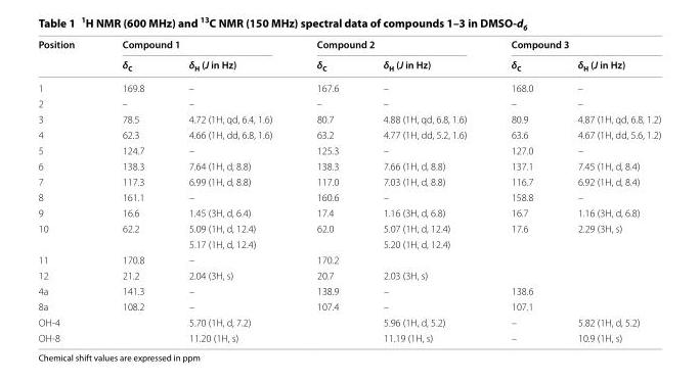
<table><thead><tr><td rowspan="2">Position</td><td colspan="2">Compound 1</td><td colspan="2">Compound 2</td><td colspan="2">Compound 3</td></tr><tr><td>δ<sub>C</sub></td><td>δ<sub>H</sub> (J in Hz)</td><td>δ<sub>C</sub></td><td>δ<sub>H</sub> (J in Hz)</td><td>δ<sub>C</sub></td><td>δ<sub>H</sub> (J in Hz)</td></tr></thead><tbody><tr><td>1</td><td>169.8</td><td>–</td><td>167.6</td><td>–</td><td>168.0</td><td>–</td></tr><tr><td>2</td><td>–</td><td>–</td><td>–</td><td>–</td><td>–</td><td>–</td></tr><tr><td>3</td><td>78.5</td><td>4.72 (1H, qd, 6.4, 1.6)</td><td>80.7</td><td>4.88 (1H, qd, 6.8, 1.6)</td><td>80.9</td><td>4.87 (1H, qd, 6.8, 1.2)</td></tr><tr><td>4</td><td>62.3</td><td>4.66 (1H, dd, 6.8, 1.6)</td><td>63.2</td><td>4.77 (1H, dd, 5.2, 1.6)</td><td>63.6</td><td>4.67 (1H, dd, 5.6, 1.2)</td></tr><tr><td>5</td><td>124.7</td><td>–</td><td>125.3</td><td>–</td><td>127.0</td><td>–</td></tr><tr><td>6</td><td>138.3</td><td>7.64 (1H, d, 8.8)</td><td>138.3</td><td>7.66 (1H, d, 8.8)</td><td>137.1</td><td>7.45 (1H, d, 8.4)</td></tr><tr><td>7</td><td>117.3</td><td>6.99 (1H, d, 8.8)</td><td>117.0</td><td>7.03 (1H, d, 8.8)</td><td>116.7</td><td>6.92 (1H, d, 8.4)</td></tr><tr><td>8</td><td>161.1</td><td>–</td><td>160.6</td><td>–</td><td>158.8</td><td>–</td></tr><tr><td>9</td><td>16.6</td><td>1.45 (3H, d, 6.4)</td><td>17.4</td><td>1.16 (3H, d, 6.8)</td><td>16.7</td><td>1.16 (3H, d, 6.8)</td></tr><tr><td rowspan="2">10</td><td>62.2</td><td>5.09 (1H, d, 12.4)</td><td>62.0</td><td>5.07 (1H, d, 12.4)</td><td>17.6</td><td>2.29 (3H, s)</td></tr><tr><td></td><td>5.17 (1H, d, 12.4)</td><td></td><td>5.20 (1H, d, 12.4)</td><td></td><td></td></tr><tr><td>11</td><td>170.8</td><td>–</td><td>170.2</td><td></td><td></td><td></td></tr><tr><td>12</td><td>21.2</td><td>2.04 (3H, s)</td><td>20.7</td><td>2.03 (3H, s)</td><td></td><td></td></tr><tr><td>4a</td><td>141.3</td><td>–</td><td>138.9</td><td>–</td><td>138.6</td><td></td></tr><tr><td>8a</td><td>108.2</td><td>–</td><td>107.4</td><td>–</td><td>107.1</td><td></td></tr><tr><td>OH-4</td><td></td><td>5.70 (1H, d, 7.2)</td><td></td><td>5.96 (1H, d, 5.2)</td><td>–</td><td>5.82 (1H, d, 5.2)</td></tr><tr><td>OH-8</td><td></td><td>11.20 (1H, s)</td><td></td><td>11.19 (1H, s)</td><td>–</td><td>10.9 (1H, s)</td></tr></tbody></table>